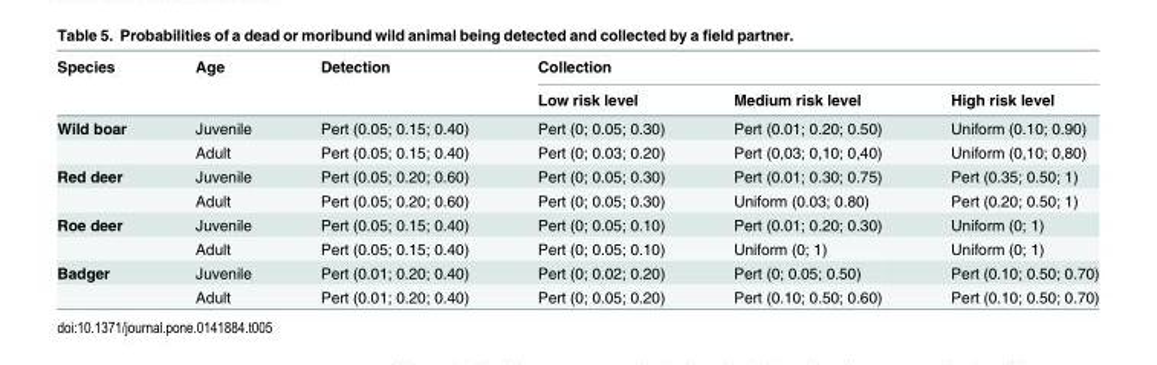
<table><thead><tr><td rowspan="2">Species</td><td rowspan="2">Age</td><td rowspan="2">Detection</td><td colspan="3">Collection</td></tr><tr><td>Low risk level</td><td>Medium risk level</td><td>High risk level</td></tr></thead><tbody><tr><td rowspan="2">Wild boar</td><td>Juvenile</td><td>Pert (0.05; 0.15; 0.40)</td><td>Pert (0; 0.05; 0.30)</td><td>Pert (0.01; 0.20; 0.50)</td><td>Uniform (0.10; 0.90)</td></tr><tr><td>Adult</td><td>Pert (0.05; 0.15; 0.40)</td><td>Pert (0; 0.03; 0.20)</td><td>Pert (0,03; 0,10; 0,40)</td><td>Uniform (0,10; 0,80)</td></tr><tr><td rowspan="2">Red deer</td><td>Juvenile</td><td>Pert (0.05; 0.20; 0.60)</td><td>Pert (0; 0.05; 0.30)</td><td>Pert (0.01; 0.30; 0.75)</td><td>Pert (0.35; 0.50; 1)</td></tr><tr><td>Adult</td><td>Pert (0.05; 0.20; 0.60)</td><td>Pert (0; 0.05; 0.30)</td><td>Uniform (0.03; 0.80)</td><td>Pert (0.20; 0.50; 1)</td></tr><tr><td rowspan="2">Roe deer</td><td>Juvenile</td><td>Pert (0.05; 0.15; 0.40)</td><td>Pert (0; 0.05; 0.10)</td><td>Pert (0.01; 0.20; 0.30)</td><td>Uniform (0; 1)</td></tr><tr><td>Adult</td><td>Pert (0.05; 0.15; 0.40)</td><td>Pert (0; 0.05; 0.10)</td><td>Uniform (0; 1)</td><td>Uniform (0; 1)</td></tr><tr><td rowspan="2">Badger</td><td>Juvenile</td><td>Pert (0.01; 0.20; 0.40)</td><td>Pert (0; 0.02; 0.20)</td><td>Pert (0; 0.05; 0.50)</td><td>Pert (0.10; 0.50; 0.70)</td></tr><tr><td>Adult</td><td>Pert (0.01; 0.20; 0.40)</td><td>Pert (0; 0.05; 0.20)</td><td>Pert (0.10; 0.50; 0.60)</td><td>Pert (0.10; 0.50; 0.70)</td></tr></tbody></table>